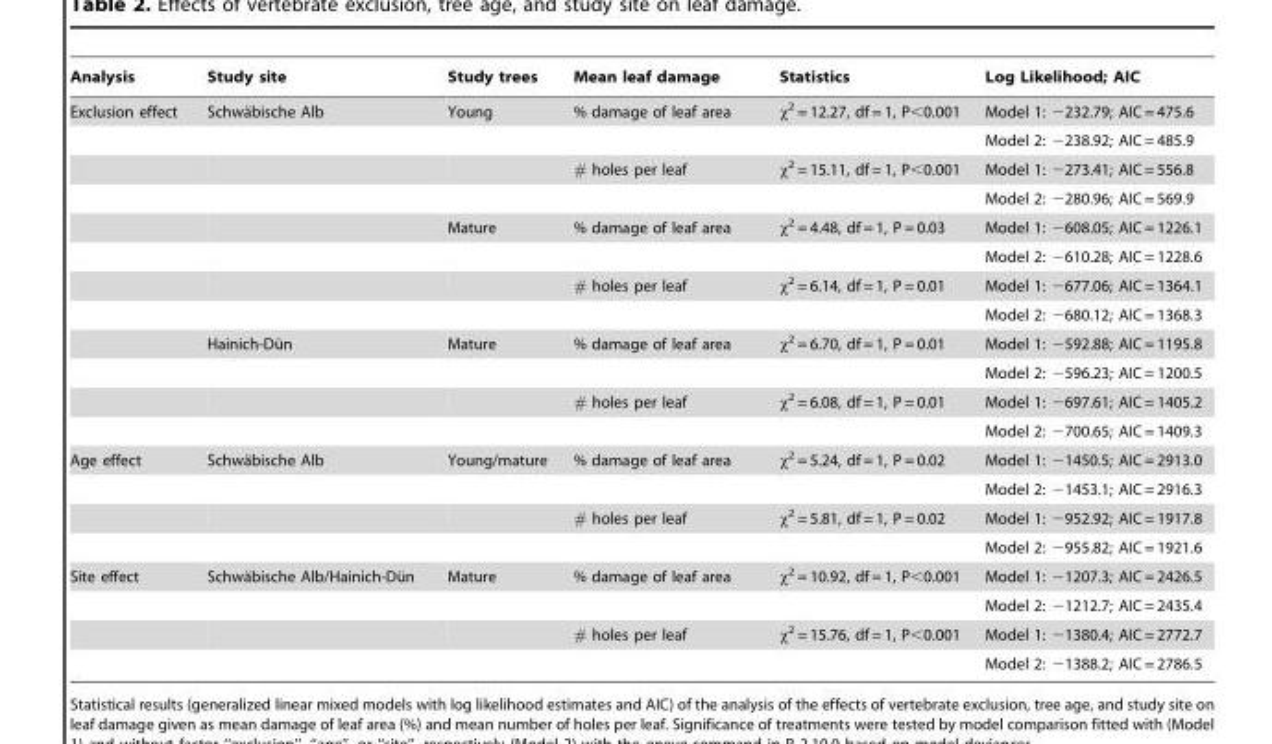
<table><thead><tr><td>Analysis</td><td>Study site</td><td>Study trees</td><td>Mean leaf damage</td><td>Statistics</td><td>Log Likelihood; AIC</td></tr></thead><tbody><tr><td rowspan="12">Exclusion effect</td><td>Schwa¨bische Alb</td><td>Young</td><td>% damage of leaf area</td><td>χ<sup>2</sup> = 12.27, df = 1, P&lt;0.001</td><td>Model 1: −232.79; AIC = 475.6</td></tr><tr><td></td><td></td><td></td><td></td><td>Model 2: −238.92; AIC = 485.9</td></tr><tr><td></td><td></td><td># holes per leaf</td><td>χ<sup>2</sup> = 15.11, df = 1, P&lt;0.001</td><td>Model 1: −273.41; AIC = 556.8</td></tr><tr><td></td><td></td><td></td><td></td><td>Model 2: −280.96; AIC = 569.9</td></tr><tr><td></td><td>Mature</td><td>% damage of leaf area</td><td>χ<sup>2</sup> = 4.48, df = 1, P = 0.03</td><td>Model 1: −608.05; AIC = 1226.1</td></tr><tr><td></td><td></td><td></td><td></td><td>Model 2: −610.28; AIC = 1228.6</td></tr><tr><td></td><td></td><td># holes per leaf</td><td>χ<sup>2</sup> = 6.14, df = 1, P = 0.01</td><td>Model 1: −677.06; AIC = 1364.1</td></tr><tr><td></td><td></td><td></td><td></td><td>Model 2: −680.12; AIC = 1368.3</td></tr><tr><td>Hainich-Du¨n</td><td>Mature</td><td>% damage of leaf area</td><td>χ<sup>2</sup> = 6.70, df = 1, P = 0.01</td><td>Model 1: −592.88; AIC = 1195.8</td></tr><tr><td></td><td></td><td></td><td></td><td>Model 2: −596.23; AIC = 1200.5</td></tr><tr><td></td><td></td><td># holes per leaf</td><td>χ<sup>2</sup> = 6.08, df = 1, P = 0.01</td><td>Model 1: −697.61; AIC = 1405.2</td></tr><tr><td></td><td></td><td></td><td></td><td>Model 2: −700.65; AIC = 1409.3</td></tr><tr><td rowspan="4">Age effect</td><td>Schwa¨bische Alb</td><td>Young/mature</td><td>% damage of leaf area</td><td>χ<sup>2</sup> = 5.24, df = 1, P = 0.02</td><td>Model 1: −1450.5; AIC = 2913.0</td></tr><tr><td></td><td></td><td></td><td></td><td>Model 2: −1453.1; AIC = 2916.3</td></tr><tr><td></td><td></td><td># holes per leaf</td><td>χ<sup>2</sup> = 5.81, df = 1, P = 0.02</td><td>Model 1: −952.92; AIC = 1917.8</td></tr><tr><td></td><td></td><td></td><td></td><td>Model 2: −955.82; AIC = 1921.6</td></tr><tr><td rowspan="4">Site effect</td><td>Schwa¨bische Alb/Hainich-Du¨n</td><td>Mature</td><td>% damage of leaf area</td><td>χ<sup>2</sup> = 10.92, df = 1, P&lt;0.001</td><td>Model 1: −1207.3; AIC = 2426.5</td></tr><tr><td></td><td></td><td></td><td></td><td>Model 2: −1212.7; AIC = 2435.4</td></tr><tr><td></td><td></td><td># holes per leaf</td><td>χ<sup>2</sup> = 15.76, df = 1, P&lt;0.001</td><td>Model 1: −1380.4; AIC = 2772.7</td></tr><tr><td></td><td></td><td></td><td></td><td>Model 2: −1388.2; AIC = 2786.5</td></tr></tbody></table>